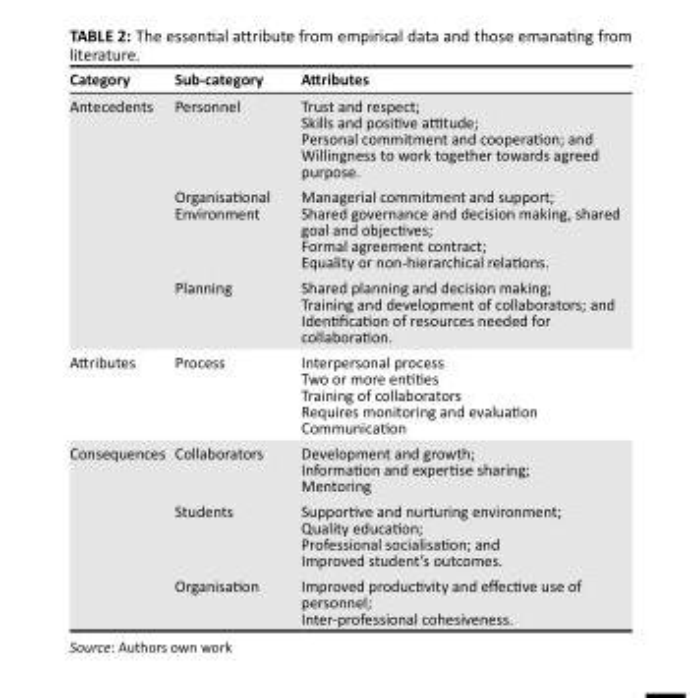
<table><thead><tr><td>Category</td><td>Sub-category</td><td>Attributes</td></tr></thead><tbody><tr><td rowspan="3">Antecedents</td><td>Personnel</td><td>Trust and respect; Skills and positive attitude; Personal commitment and cooperation; and Willingness to work together towards agreed purpose.</td></tr><tr><td>Organisational Environment</td><td>Managerial commitment and support; Shared governance and decision making, shared goal and objectives; Formal agreement contract; Equality or non-hierarchical relations.</td></tr><tr><td>Planning</td><td>Shared planning and decision making; Training and development of collaborators; and Identification of resources needed for collaboration.</td></tr><tr><td>Attributes</td><td>Process</td><td>Interpersonal process Two or more entities Training of collaborators Requires monitoring and evaluation Communication</td></tr><tr><td rowspan="3">Consequences</td><td>Collaborators</td><td>Development and growth; Information and expertise sharing; Mentoring</td></tr><tr><td>Students</td><td>Supportive and nurturing environment; Quality education; Professional socialisation; and Improved student’s outcomes.</td></tr><tr><td>Organisation</td><td>Improved productivity and effective use of personnel; Inter-professional cohesiveness.</td></tr></tbody></table>